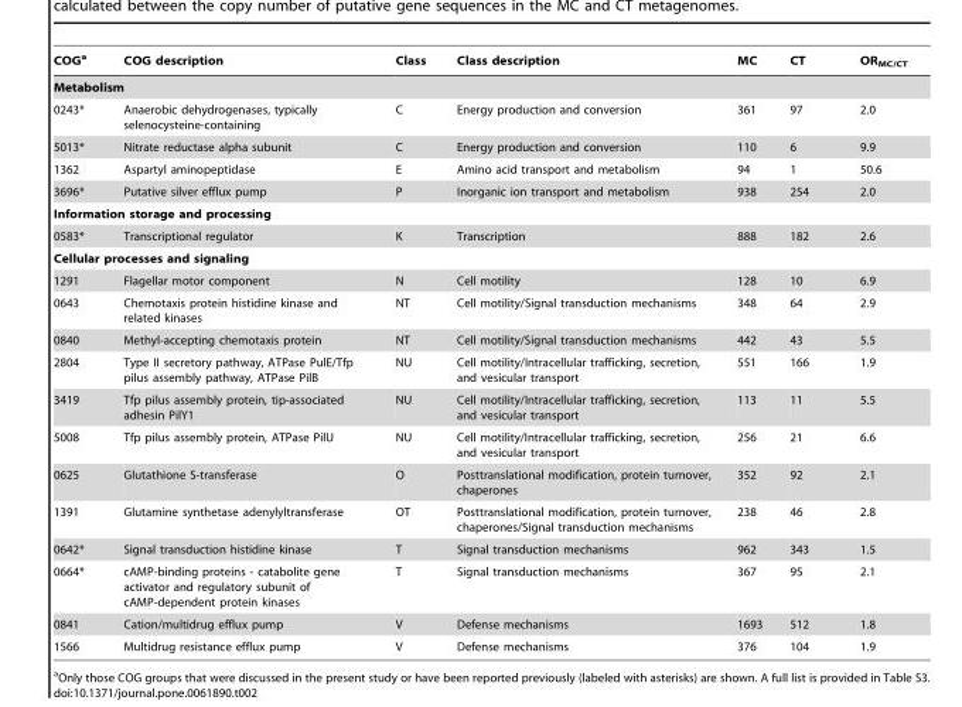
<table><thead><tr><td>COG<sup>a</sup></td><td>COG description</td><td>Class</td><td>Class description</td><td>MC</td><td>CT</td><td>OR<sub>MC/CT</sub></td></tr></thead><tbody><tr><td colspan="7">Metabolism</td></tr><tr><td>0243*</td><td>Anaerobic dehydrogenases, typically selenocysteine-containing</td><td>C</td><td>Energy production and conversion</td><td>361</td><td>97</td><td>2.0</td></tr><tr><td>5013*</td><td>Nitrate reductase alpha subunit</td><td>C</td><td>Energy production and conversion</td><td>110</td><td>6</td><td>9.9</td></tr><tr><td>1362</td><td>Aspartyl aminopeptidase</td><td>E</td><td>Amino acid transport and metabolism</td><td>94</td><td>1</td><td>50.6</td></tr><tr><td>3696*</td><td>Putative silver efflux pump</td><td>P</td><td>Inorganic ion transport and metabolism</td><td>938</td><td>254</td><td>2.0</td></tr><tr><td colspan="7">Information storage and processing</td></tr><tr><td>0583*</td><td>Transcriptional regulator</td><td>K</td><td>Transcription</td><td>888</td><td>182</td><td>2.6</td></tr><tr><td colspan="7">Cellular processes and signaling</td></tr><tr><td>1291</td><td>Flagellar motor component</td><td>N</td><td>Cell motility</td><td>128</td><td>10</td><td>6.9</td></tr><tr><td>0643</td><td>Chemotaxis protein histidine kinase and related kinases</td><td>NT</td><td>Cell motility/Signal transduction mechanisms</td><td>348</td><td>64</td><td>2.9</td></tr><tr><td>0840</td><td>Methyl-accepting chemotaxis protein</td><td>NT</td><td>Cell motility/Signal transduction mechanisms</td><td>442</td><td>43</td><td>5.5</td></tr><tr><td>2804</td><td>Type II secretory pathway, ATPase PulE/Tfp pilus assembly pathway, ATPase PilB</td><td>NU</td><td>Cell motility/Intracellular trafficking, secretion, and vesicular transport</td><td>551</td><td>166</td><td>1.9</td></tr><tr><td>3419</td><td>Tfp pilus assembly protein, tip-associated adhesin PilY1</td><td>NU</td><td>Cell motility/Intracellular trafficking, secretion, and vesicular transport</td><td>113</td><td>11</td><td>5.5</td></tr><tr><td>5008</td><td>Tfp pilus assembly protein, ATPase PilU</td><td>NU</td><td>Cell motility/Intracellular trafficking, secretion, and vesicular transport</td><td>256</td><td>21</td><td>6.6</td></tr><tr><td>0625</td><td>Glutathione S-transferase</td><td>O</td><td>Posttranslational modification, protein turnover, chaperones</td><td>352</td><td>92</td><td>2.1</td></tr><tr><td>1391</td><td>Glutamine synthetase adenylyltransferase</td><td>OT</td><td>Posttranslational modification, protein turnover, chaperones/Signal transduction mechanisms</td><td>238</td><td>46</td><td>2.8</td></tr><tr><td>0642*</td><td>Signal transduction histidine kinase</td><td>T</td><td>Signal transduction mechanisms</td><td>962</td><td>343</td><td>1.5</td></tr><tr><td>0664*</td><td>cAMP-binding proteins - catabolite gene activator and regulatory subunit of cAMP-dependent protein kinases</td><td>T</td><td>Signal transduction mechanisms</td><td>367</td><td>95</td><td>2.1</td></tr><tr><td>0841</td><td>Cation/multidrug efflux pump</td><td>V</td><td>Defense mechanisms</td><td>1693</td><td>512</td><td>1.8</td></tr><tr><td>1566</td><td>Multidrug resistance efflux pump</td><td>V</td><td>Defense mechanisms</td><td>376</td><td>104</td><td>1.9</td></tr></tbody></table>